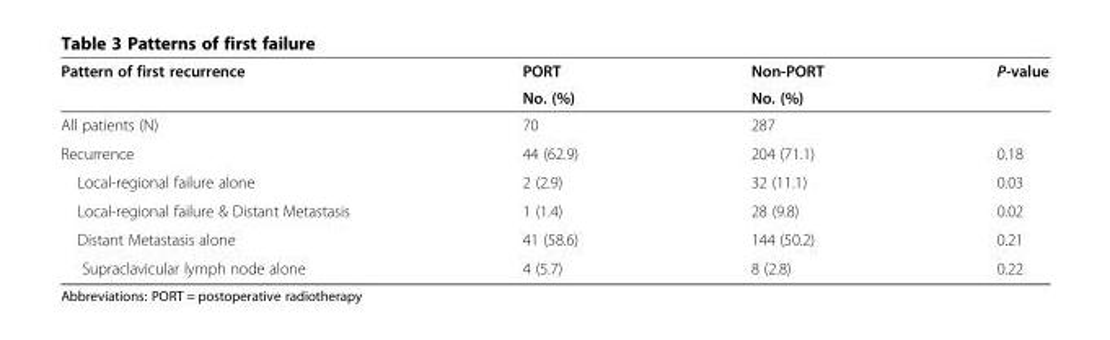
<table><thead><tr><td rowspan="2">Pattern of first recurrence</td><td rowspan="2">PORT No. (%)</td><td rowspan="2">Non-PORT No. (%)</td><td rowspan="2">P-value</td></tr><tr></tr></thead><tbody><tr><td>All patients (N)</td><td>70</td><td>287</td><td></td></tr><tr><td>Recurrence</td><td>44 (62.9)</td><td>204 (71.1)</td><td>0.18</td></tr><tr><td>Local-regional failure alone</td><td>2 (2.9)</td><td>32 (11.1)</td><td>0.03</td></tr><tr><td>Local-regional failure &amp; Distant Metastasis</td><td>1 (1.4)</td><td>28 (9.8)</td><td>0.02</td></tr><tr><td>Distant Metastasis alone</td><td>41 (58.6)</td><td>144 (50.2)</td><td>0.21</td></tr><tr><td>Supraclavicular lymph node alone</td><td>4 (5.7)</td><td>8 (2.8)</td><td>0.22</td></tr></tbody></table>